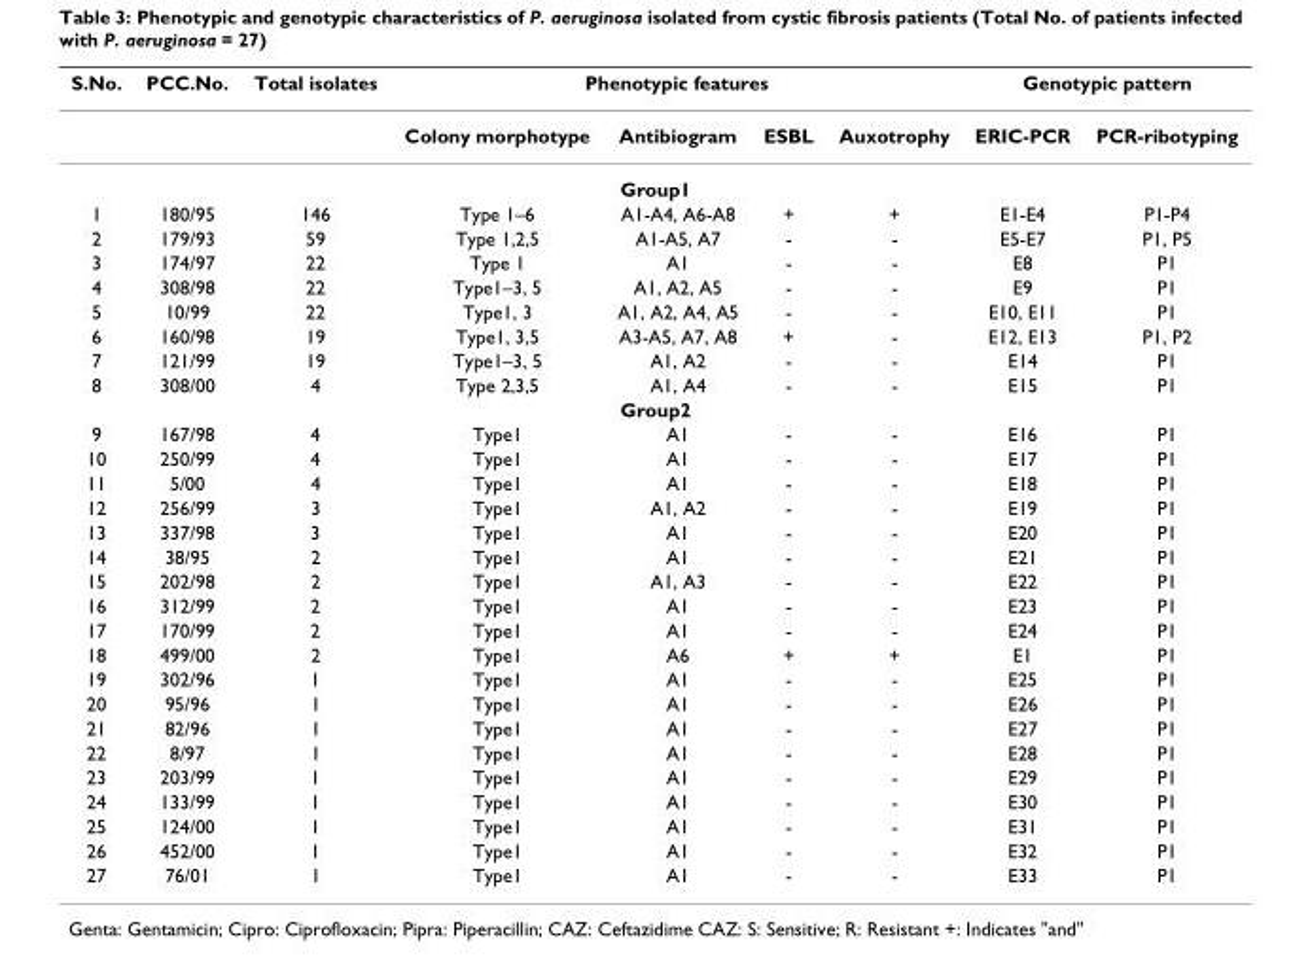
<table><thead><tr><td rowspan="2">S.No.</td><td rowspan="2">PCC.No.</td><td rowspan="2">Total isolates</td><td colspan="4">Phenotypic features</td><td colspan="2">Genotypic pattern</td></tr><tr><td>Colony morphotype</td><td>Antibiogram</td><td>ESBL</td><td>Auxotrophy</td><td>ERIC-PCR</td><td>PCR-ribotyping</td></tr></thead><tbody><tr><td colspan="9">Group1</td></tr><tr><td>1</td><td>180/95</td><td>146</td><td>Type 1–6</td><td>A1-A4, A6-A8</td><td>+</td><td>+</td><td>E1-E4</td><td>P1-P4</td></tr><tr><td>2</td><td>179/93</td><td>59</td><td>Type 1,2,5</td><td>A1-A5, A7</td><td>-</td><td>-</td><td>E5-E7</td><td>P1, P5</td></tr><tr><td>3</td><td>174/97</td><td>22</td><td>Type 1</td><td>A1</td><td>-</td><td>-</td><td>E8</td><td>P1</td></tr><tr><td>4</td><td>308/98</td><td>22</td><td>Type1–3, 5</td><td>A1, A2, A5</td><td>-</td><td>-</td><td>E9</td><td>P1</td></tr><tr><td>5</td><td>10/99</td><td>22</td><td>Type1, 3</td><td>A1, A2, A4, A5</td><td>-</td><td>-</td><td>E10, E11</td><td>P1</td></tr><tr><td>6</td><td>160/98</td><td>19</td><td>Type1, 3,5</td><td>A3-A5, A7, A8</td><td>+</td><td>-</td><td>E12, E13</td><td>P1, P2</td></tr><tr><td>7</td><td>121/99</td><td>19</td><td>Type1–3, 5</td><td>A1, A2</td><td>-</td><td>-</td><td>E14</td><td>P1</td></tr><tr><td>8</td><td>308/00</td><td>4</td><td>Type 2,3,5</td><td>A1, A4</td><td>-</td><td>-</td><td>E15</td><td>P1</td></tr><tr><td colspan="9">Group2</td></tr><tr><td>9</td><td>167/98</td><td>4</td><td>Type1</td><td>A1</td><td>-</td><td>-</td><td>E16</td><td>P1</td></tr><tr><td>10</td><td>250/99</td><td>4</td><td>Type1</td><td>A1</td><td>-</td><td>-</td><td>E17</td><td>P1</td></tr><tr><td>11</td><td>5/00</td><td>4</td><td>Type1</td><td>A1</td><td>-</td><td>-</td><td>E18</td><td>P1</td></tr><tr><td>12</td><td>256/99</td><td>3</td><td>Type1</td><td>A1, A2</td><td>-</td><td>-</td><td>E19</td><td>P1</td></tr><tr><td>13</td><td>337/98</td><td>3</td><td>Type1</td><td>A1</td><td>-</td><td>-</td><td>E20</td><td>P1</td></tr><tr><td>14</td><td>38/95</td><td>2</td><td>Type1</td><td>A1</td><td>-</td><td>-</td><td>E21</td><td>P1</td></tr><tr><td>15</td><td>202/98</td><td>2</td><td>Type1</td><td>A1, A3</td><td>-</td><td>-</td><td>E22</td><td>P1</td></tr><tr><td>16</td><td>312/99</td><td>2</td><td>Type1</td><td>A1</td><td>-</td><td>-</td><td>E23</td><td>P1</td></tr><tr><td>17</td><td>170/99</td><td>2</td><td>Type1</td><td>A1</td><td>-</td><td>-</td><td>E24</td><td>P1</td></tr><tr><td>18</td><td>499/00</td><td>2</td><td>Type1</td><td>A6</td><td>+</td><td>+</td><td>E1</td><td>P1</td></tr><tr><td>19</td><td>302/96</td><td>1</td><td>Type1</td><td>A1</td><td>-</td><td>-</td><td>E25</td><td>P1</td></tr><tr><td>20</td><td>95/96</td><td>1</td><td>Type1</td><td>A1</td><td>-</td><td>-</td><td>E26</td><td>P1</td></tr><tr><td>21</td><td>82/96</td><td>1</td><td>Type1</td><td>A1</td><td>-</td><td>-</td><td>E27</td><td>P1</td></tr><tr><td>22</td><td>8/97</td><td>1</td><td>Type1</td><td>A1</td><td>-</td><td>-</td><td>E28</td><td>P1</td></tr><tr><td>23</td><td>203/99</td><td>1</td><td>Type1</td><td>A1</td><td>-</td><td>-</td><td>E29</td><td>P1</td></tr><tr><td>24</td><td>133/99</td><td>1</td><td>Type1</td><td>A1</td><td>-</td><td>-</td><td>E30</td><td>P1</td></tr><tr><td>25</td><td>124/00</td><td>1</td><td>Type1</td><td>A1</td><td>-</td><td>-</td><td>E31</td><td>P1</td></tr><tr><td>26</td><td>452/00</td><td>1</td><td>Type1</td><td>A1</td><td>-</td><td>-</td><td>E32</td><td>P1</td></tr><tr><td>27</td><td>76/01</td><td>1</td><td>Type1</td><td>A1</td><td>-</td><td>-</td><td>E33</td><td>P1</td></tr></tbody></table>